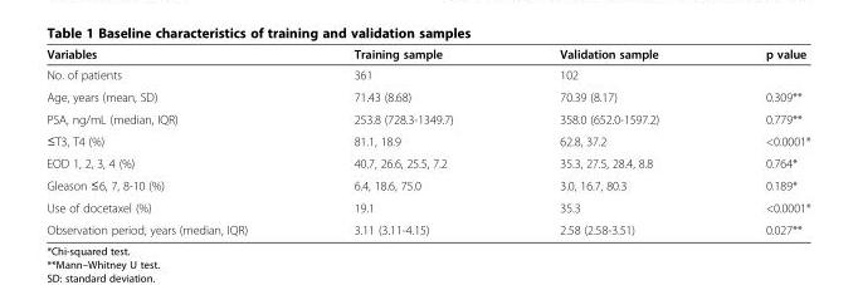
<table><thead><tr><td>Variables</td><td>Training sample</td><td>Validation sample</td><td>p value</td></tr></thead><tbody><tr><td>No. of patients</td><td>361</td><td>102</td><td></td></tr><tr><td>Age, years (mean, SD)</td><td>71.43 (8.68)</td><td>70.39 (8.17)</td><td>0.309**</td></tr><tr><td>PSA, ng/mL (median, IQR)</td><td>253.8 (728.3-1349.7)</td><td>358.0 (652.0-1597.2)</td><td>0.779**</td></tr><tr><td>≤T3, T4 (%)</td><td>81.1, 18.9</td><td>62.8, 37.2</td><td>&lt;0.0001*</td></tr><tr><td>EOD 1, 2, 3, 4 (%)</td><td>40.7, 26.6, 25.5, 7.2</td><td>35.3, 27.5, 28.4, 8.8</td><td>0.764*</td></tr><tr><td>Gleason ≤6, 7, 8-10 (%)</td><td>6.4, 18.6, 75.0</td><td>3.0, 16.7, 80.3</td><td>0.189*</td></tr><tr><td>Use of docetaxel (%)</td><td>19.1</td><td>35.3</td><td>&lt;0.0001*</td></tr><tr><td>Observation period, years (median, IQR)</td><td>3.11 (3.11-4.15)</td><td>2.58 (2.58-3.51)</td><td>0.027**</td></tr></tbody></table>